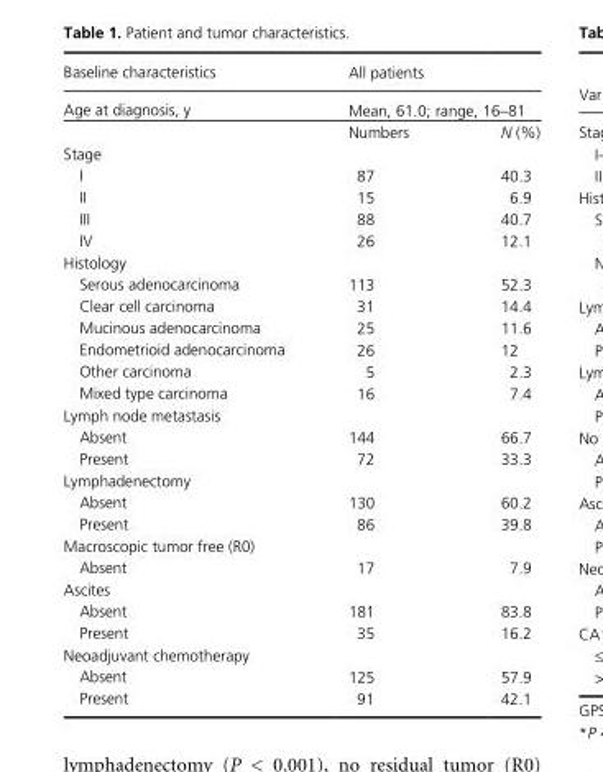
<table><thead><tr><td rowspan="3">Baseline characteristics Age at diagnosis, y</td><td rowspan="2" colspan="2">All patients Mean, 61.0; range, 16–81</td></tr><tr></tr><tr><td>Numbers</td><td>N (%)</td></tr></thead><tbody><tr><td colspan="3">Stage</td></tr><tr><td>I</td><td>87</td><td>40.3</td></tr><tr><td>II</td><td>15</td><td>6.9</td></tr><tr><td>III</td><td>88</td><td>40.7</td></tr><tr><td>IV</td><td>26</td><td>12.1</td></tr><tr><td colspan="3">Histology</td></tr><tr><td>Serous adenocarcinoma</td><td>113</td><td>52.3</td></tr><tr><td>Clear cell carcinoma</td><td>31</td><td>14.4</td></tr><tr><td>Mucinous adenocarcinoma</td><td>25</td><td>11.6</td></tr><tr><td>Endometrioid adenocarcinoma</td><td>26</td><td>12</td></tr><tr><td>Other carcinoma</td><td>5</td><td>2.3</td></tr><tr><td>Mixed type carcinoma</td><td>16</td><td>7.4</td></tr><tr><td colspan="3">Lymph node metastasis</td></tr><tr><td>Absent</td><td>144</td><td>66.7</td></tr><tr><td>Present</td><td>72</td><td>33.3</td></tr><tr><td colspan="3">Lymphadenectomy</td></tr><tr><td>Absent</td><td>130</td><td>60.2</td></tr><tr><td>Present</td><td>86</td><td>39.8</td></tr><tr><td colspan="3">Macroscopic tumor free (R0)</td></tr><tr><td>Absent</td><td>17</td><td>7.9</td></tr><tr><td colspan="3">Ascites</td></tr><tr><td>Absent</td><td>181</td><td>83.8</td></tr><tr><td>Present</td><td>35</td><td>16.2</td></tr><tr><td colspan="3">Neoadjuvant chemotherapy</td></tr><tr><td>Absent</td><td>125</td><td>57.9</td></tr><tr><td>Present</td><td>91</td><td>42.1</td></tr></tbody></table>